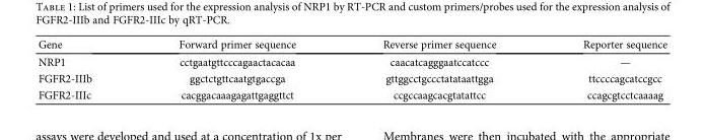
<table><thead><tr><td>Gene</td><td>Forward primer sequence</td><td>Reverse primer sequence</td><td>Reporter sequence</td></tr></thead><tbody><tr><td>NRP1</td><td>cctgaatgttcccagaactacacaa</td><td>caacatcagggaatccatccc</td><td>—</td></tr><tr><td>FGFR2-IIIb</td><td>ggctctgttcaatgtgaccga</td><td>gttggcctgccctatataattgga</td><td>ttccccagcatccgcc</td></tr><tr><td>FGFR2-IIIc</td><td>cacggacaaagagattgaggttct</td><td>ccgccaagcacgtatattcc</td><td>ccagcgtcctcaaaag</td></tr></tbody></table>